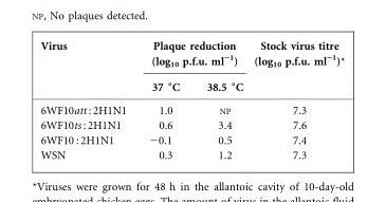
<table><thead><tr><td rowspan="2">Virus</td><td colspan="2">Plaque reduction (log10 p.f.u. ml”1)</td><td rowspan="2">Stock virus titre (log10 p.f.u. ml”1)*</td></tr><tr><td>37 °C</td><td>38.5 °C</td></tr></thead><tbody><tr><td>6WF10att : 2H1N1</td><td>1.0</td><td>NP</td><td>7.3</td></tr><tr><td>6WF10ts : 2H1N1</td><td>0.6</td><td>3.4</td><td>7.6</td></tr><tr><td>6WF10 : 2H1N1</td><td>−0.1</td><td>0.5</td><td>7.4</td></tr><tr><td>WSN</td><td>0.3</td><td>1.2</td><td>7.3</td></tr></tbody></table>